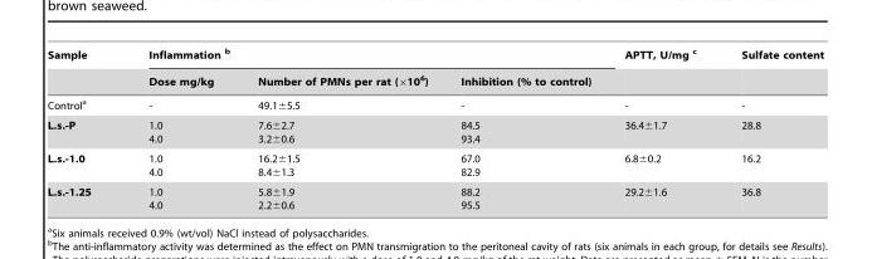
<table><thead><tr><td rowspan="2">Sample</td><td colspan="3">Inflammation b</td><td rowspan="2">APTT, U/mg c</td><td rowspan="2">Sulfate content</td></tr><tr><td>Dose mg/kg</td><td>Number of PMNs per rat (×10<sup>6</sup>)</td><td>Inhibition (% to control)</td></tr></thead><tbody><tr><td>Control<sup>a</sup></td><td>-</td><td>49.1±5.5</td><td>-</td><td>-</td><td>-</td></tr><tr><td>L.s.-P</td><td>1.0 4.0</td><td>7.6±2.7 3.2±0.6</td><td>84.5 93.4</td><td>36.4±1.7</td><td>28.8</td></tr><tr><td>L.s.-1.0</td><td>1.0 4.0</td><td>16.2±1.5 8.4±1.3</td><td>67.0 82.9</td><td>6.8±0.2</td><td>16.2</td></tr><tr><td>L.s.-1.25</td><td>1.0 4.0</td><td>5.8±1.9 2.2±0.6</td><td>88.2 95.5</td><td>29.2±1.6</td><td>36.8</td></tr></tbody></table>